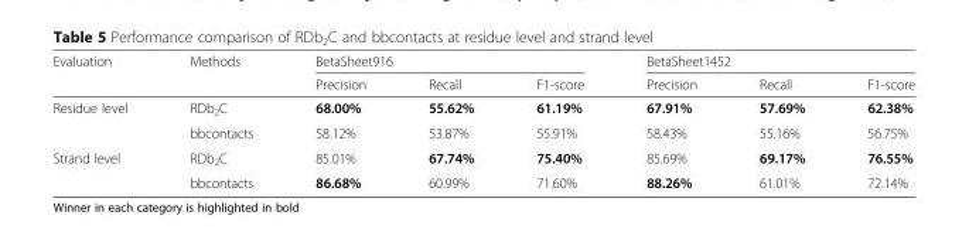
<table><thead><tr><td rowspan="2">Evaluation</td><td rowspan="2">Methods</td><td colspan="3">BetaSheet916</td><td colspan="3">BetaSheet1452</td></tr><tr><td>Precision</td><td>Recall</td><td>F1-score</td><td>Precision</td><td>Recall</td><td>F1-score</td></tr></thead><tbody><tr><td rowspan="2">Residue level</td><td>RDb<sub>2</sub>C</td><td>68.00%</td><td>55.62%</td><td>61.19%</td><td>67.91%</td><td>57.69%</td><td>62.38%</td></tr><tr><td>bbcontacts</td><td>58.12%</td><td>53.87%</td><td>55.91%</td><td>58.43%</td><td>55.16%</td><td>56.75%</td></tr><tr><td rowspan="2">Strand level</td><td>RDb<sub>2</sub>C</td><td>85.01%</td><td>67.74%</td><td>75.40%</td><td>85.69%</td><td>69.17%</td><td>76.55%</td></tr><tr><td>bbcontacts</td><td>86.68%</td><td>60.99%</td><td>71.60%</td><td>88.26%</td><td>61.01%</td><td>72.14%</td></tr></tbody></table>